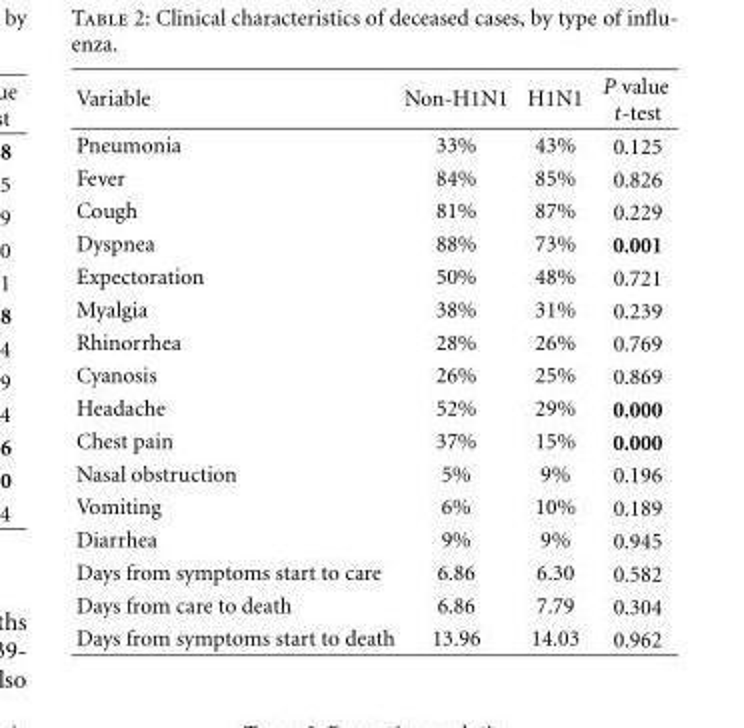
<table><thead><tr><td>Variable</td><td>Non-H1N1</td><td>H1N1</td><td>P value t-test</td></tr></thead><tbody><tr><td>Pneumonia</td><td>33%</td><td>43%</td><td>0.125</td></tr><tr><td>Fever</td><td>84%</td><td>85%</td><td>0.826</td></tr><tr><td>Cough</td><td>81%</td><td>87%</td><td>0.229</td></tr><tr><td>Dyspnea</td><td>88%</td><td>73%</td><td>0.001</td></tr><tr><td>Expectoration</td><td>50%</td><td>48%</td><td>0.721</td></tr><tr><td>Myalgia</td><td>38%</td><td>31%</td><td>0.239</td></tr><tr><td>Rhinorrhea</td><td>28%</td><td>26%</td><td>0.769</td></tr><tr><td>Cyanosis</td><td>26%</td><td>25%</td><td>0.869</td></tr><tr><td>Headache</td><td>52%</td><td>29%</td><td>0.000</td></tr><tr><td>Chest pain</td><td>37%</td><td>15%</td><td>0.000</td></tr><tr><td>Nasal obstruction</td><td>5%</td><td>9%</td><td>0.196</td></tr><tr><td>Vomiting</td><td>6%</td><td>10%</td><td>0.189</td></tr><tr><td>Diarrhea</td><td>9%</td><td>9%</td><td>0.945</td></tr><tr><td>Days from symptoms start to care</td><td>6.86</td><td>6.30</td><td>0.582</td></tr><tr><td>Days from care to death</td><td>6.86</td><td>7.79</td><td>0.304</td></tr><tr><td>Days from symptoms start to death</td><td>13.96</td><td>14.03</td><td>0.962</td></tr></tbody></table>